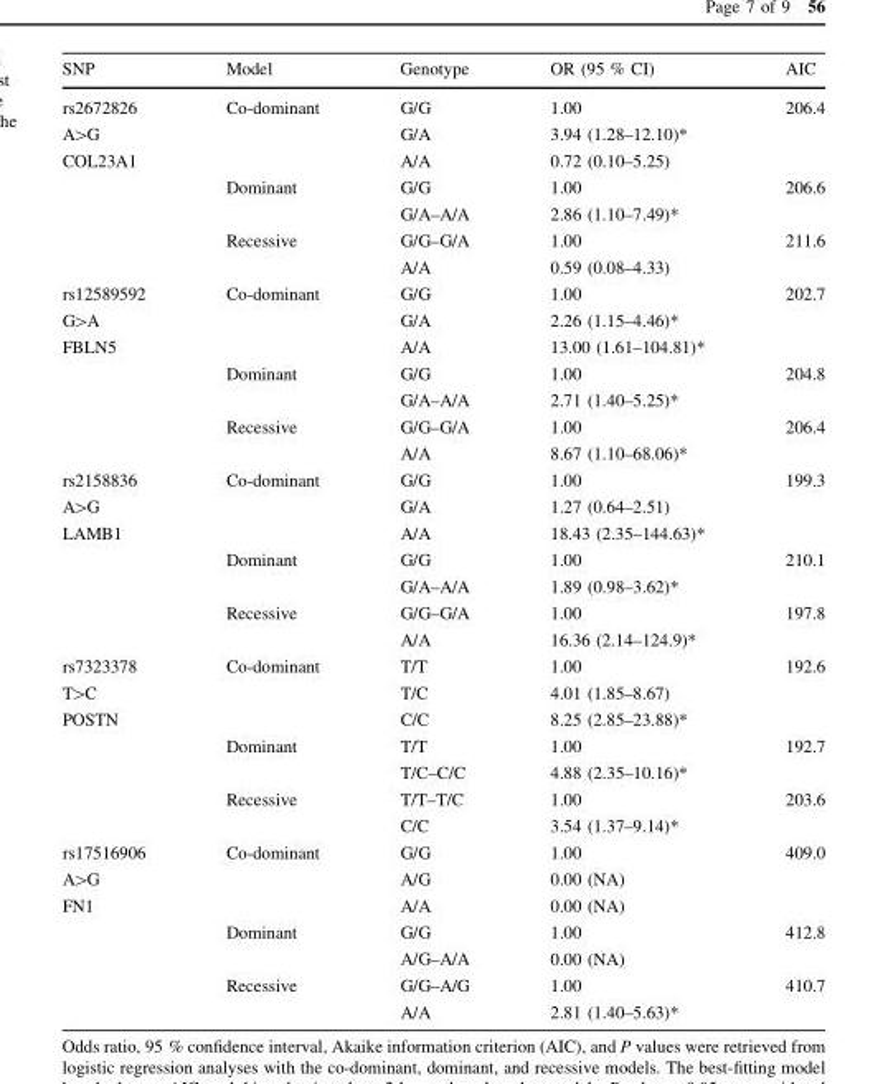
<table><thead><tr><td>SNP</td><td>Model</td><td>Genotype</td><td>OR (95 % CI)</td><td>AIC</td></tr></thead><tbody><tr><td rowspan="3">rs2672826 A&gt;G COL23A1</td><td>Co-dominant</td><td>G/G G/A A/A</td><td>1.00 3.94 (1.28–12.10)* 0.72 (0.10–5.25)</td><td>206.4</td></tr><tr><td>Dominant</td><td>G/G G/A–A/A</td><td>1.00 2.86 (1.10–7.49)*</td><td>206.6</td></tr><tr><td>Recessive</td><td>G/G–G/A A/A</td><td>1.00 0.59 (0.08–4.33)</td><td>211.6</td></tr><tr><td rowspan="3">rs12589592 G&gt;A FBLN5</td><td>Co-dominant</td><td>G/G G/A A/A</td><td>1.00 2.26 (1.15–4.46)* 13.00 (1.61–104.81)*</td><td>202.7</td></tr><tr><td>Dominant</td><td>G/G G/A–A/A</td><td>1.00 2.71 (1.40–5.25)*</td><td>204.8</td></tr><tr><td>Recessive</td><td>G/G–G/A A/A</td><td>1.00 8.67 (1.10–68.06)*</td><td>206.4</td></tr><tr><td rowspan="3">rs2158836 A&gt;G LAMB1</td><td>Co-dominant</td><td>G/G G/A A/A</td><td>1.00 1.27 (0.64–2.51) 18.43 (2.35–144.63)*</td><td>199.3</td></tr><tr><td>Dominant</td><td>G/G G/A–A/A</td><td>1.00 1.89 (0.98–3.62)*</td><td>210.1</td></tr><tr><td>Recessive</td><td>G/G–G/A A/A</td><td>1.00 16.36 (2.14–124.9)*</td><td>197.8</td></tr><tr><td rowspan="3">rs7323378 T&gt;C POSTN</td><td>Co-dominant</td><td>T/T T/C C/C</td><td>1.00 4.01 (1.85–8.67) 8.25 (2.85–23.88)*</td><td>192.6</td></tr><tr><td>Dominant</td><td>T/T T/C–C/C</td><td>1.00 4.88 (2.35–10.16)*</td><td>192.7</td></tr><tr><td>Recessive</td><td>T/T–T/C C/C</td><td>1.00 3.54 (1.37–9.14)*</td><td>203.6</td></tr><tr><td rowspan="3">rs17516906 A&gt;G FN1</td><td>Co-dominant</td><td>G/G A/G A/A</td><td>1.00 0.00 (NA) 0.00 (NA)</td><td>409.0</td></tr><tr><td>Dominant</td><td>G/G A/G–A/A</td><td>1.00 0.00 (NA)</td><td>412.8</td></tr><tr><td>Recessive</td><td>G/G–A/G A/A</td><td>1.00 2.81 (1.40–5.63)*</td><td>410.7</td></tr></tbody></table>